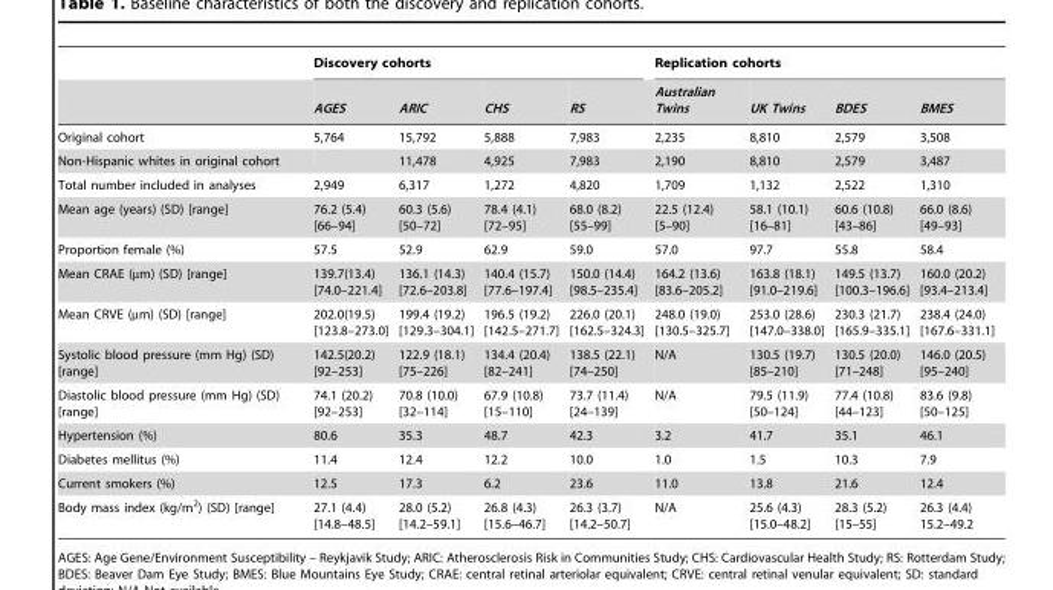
<table><thead><tr><td rowspan="2"></td><td colspan="4">Discovery cohorts</td><td colspan="4">Replication cohorts</td></tr><tr><td>AGES</td><td>ARIC</td><td>CHS</td><td>RS</td><td>Australian Twins</td><td>UK Twins</td><td>BDES</td><td>BMES</td></tr></thead><tbody><tr><td>Original cohort</td><td>5,764</td><td>15,792</td><td>5,888</td><td>7,983</td><td>2,235</td><td>8,810</td><td>2,579</td><td>3,508</td></tr><tr><td>Non-Hispanic whites in original cohort</td><td></td><td>11,478</td><td>4,925</td><td>7,983</td><td>2,190</td><td>8,810</td><td>2,579</td><td>3,487</td></tr><tr><td>Total number included in analyses</td><td>2,949</td><td>6,317</td><td>1,272</td><td>4,820</td><td>1,709</td><td>1,132</td><td>2,522</td><td>1,310</td></tr><tr><td>Mean age (years) (SD) [range]</td><td>76.2 (5.4) [66–94]</td><td>60.3 (5.6) [50–72]</td><td>78.4 (4.1) [72–95]</td><td>68.0 (8.2) [55–99]</td><td>22.5 (12.4) [5–90]</td><td>58.1 (10.1) [16–81]</td><td>60.6 (10.8) [43–86]</td><td>66.0 (8.6) [49–93]</td></tr><tr><td>Proportion female (%)</td><td>57.5</td><td>52.9</td><td>62.9</td><td>59.0</td><td>57.0</td><td>97.7</td><td>55.8</td><td>58.4</td></tr><tr><td>Mean CRAE (µm) (SD) [range]</td><td>139.7(13.4) [74.0–221.4]</td><td>136.1 (14.3) [72.6–203.8]</td><td>140.4 (15.7) [77.6–197.4]</td><td>150.0 (14.4) [98.5–235.4]</td><td>164.2 (13.6) [83.6–205.2]</td><td>163.8 (18.1) [91.0–219.6]</td><td>149.5 (13.7) [100.3–196.6]</td><td>160.0 (20.2) [93.4–213.4]</td></tr><tr><td>Mean CRVE (µm) (SD) [range]</td><td>202.0(19.5) [123.8–273.0]</td><td>199.4 (19.2) [129.3–304.1]</td><td>196.5 (19.2) [142.5–271.7]</td><td>226.0 (20.1) [162.5–324.3]</td><td>248.0 (19.0) [130.5–325.7]</td><td>253.0 (28.6) [147.0–338.0]</td><td>230.3 (21.7) [165.9–335.1]</td><td>238.4 (24.0) [167.6–331.1]</td></tr><tr><td>Systolic blood pressure (mm Hg) (SD) [range]</td><td>142.5(20.2) [92–253]</td><td>122.9 (18.1) [75–226]</td><td>134.4 (20.4) [82–241]</td><td>138.5 (22.1) [74–250]</td><td>N/A</td><td>130.5 (19.7) [85–210]</td><td>130.5 (20.0) [71–248]</td><td>146.0 (20.5) [95–240]</td></tr><tr><td>Diastolic blood pressure (mm Hg) (SD) [range]</td><td>74.1 (20.2) [92–253]</td><td>70.8 (10.0) [32–114]</td><td>67.9 (10.8) [15–110]</td><td>73.7 (11.4) [24–139]</td><td>N/A</td><td>79.5 (11.9) [50–124]</td><td>77.4 (10.8) [44–123]</td><td>83.6 (9.8) [50–125]</td></tr><tr><td>Hypertension (%)</td><td>80.6</td><td>35.3</td><td>48.7</td><td>42.3</td><td>3.2</td><td>41.7</td><td>35.1</td><td>46.1</td></tr><tr><td>Diabetes mellitus (%)</td><td>11.4</td><td>12.4</td><td>12.2</td><td>10.0</td><td>1.0</td><td>1.5</td><td>10.3</td><td>7.9</td></tr><tr><td>Current smokers (%)</td><td>12.5</td><td>17.3</td><td>6.2</td><td>23.6</td><td>11.0</td><td>13.8</td><td>21.6</td><td>12.4</td></tr><tr><td>Body mass index (kg/m<sup>2</sup>) (SD) [range]</td><td>27.1 (4.4) [14.8–48.5]</td><td>28.0 (5.2) [14.2–59.1]</td><td>26.8 (4.3) [15.6–46.7]</td><td>26.3 (3.7) [14.2–50.7]</td><td>N/A</td><td>25.6 (4.3) [15.0–48.2]</td><td>28.3 (5.2) [15–55]</td><td>26.3 (4.4) 15.2–49.2</td></tr></tbody></table>